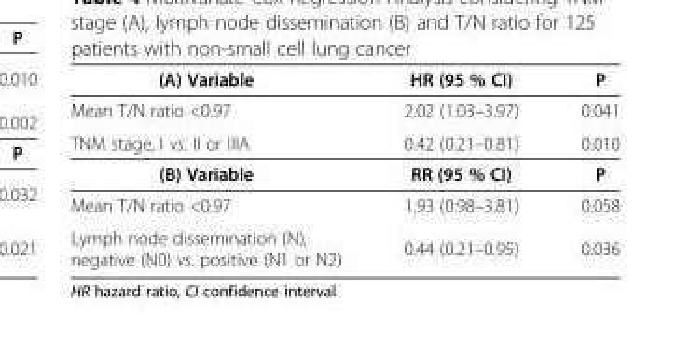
<table><thead><tr><td>(A) Variable</td><td>HR (95 % CI)</td><td>P</td></tr></thead><tbody><tr><td>Mean T/N ratio &lt;0.97</td><td>2.02 (1.03–3.97)</td><td>0.041</td></tr><tr><td>TNM stage, I vs. II or IIIA</td><td>0.42 (0.21–0.81)</td><td>0.010</td></tr><tr><td>(B) Variable</td><td>RR (95 % CI)</td><td>P</td></tr><tr><td>Mean T/N ratio &lt;0.97</td><td>1.93 (0.98–3.81)</td><td>0.058</td></tr><tr><td>Lymph node dissemination (N), negative (N0) vs. positive (N1 or N2)</td><td>0.44 (0.21–0.95)</td><td>0.036</td></tr></tbody></table>